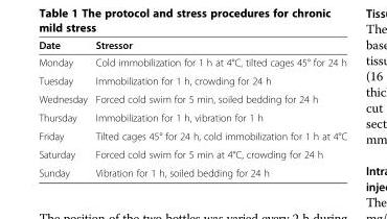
<table><thead><tr><td>Date</td><td>Stressor</td></tr></thead><tbody><tr><td>Monday</td><td>Cold immobilization for 1 h at 4°C, tilted cages 45° for 24 h</td></tr><tr><td>Tuesday</td><td>Immobilization for 1 h, crowding for 24 h</td></tr><tr><td>Wednesday</td><td>Forced cold swim for 5 min, soiled bedding for 24 h</td></tr><tr><td>Thursday</td><td>Immobilization for 1 h, vibration for 1 h</td></tr><tr><td>Friday</td><td>Tilted cages 45° for 24 h, cold immobilization for 1 h at 4°C</td></tr><tr><td>Saturday</td><td>Forced cold swim for 5 min at 4°C, crowding for 24 h</td></tr><tr><td>Sunday</td><td>Vibration for 1 h, soiled bedding for 24 h</td></tr></tbody></table>